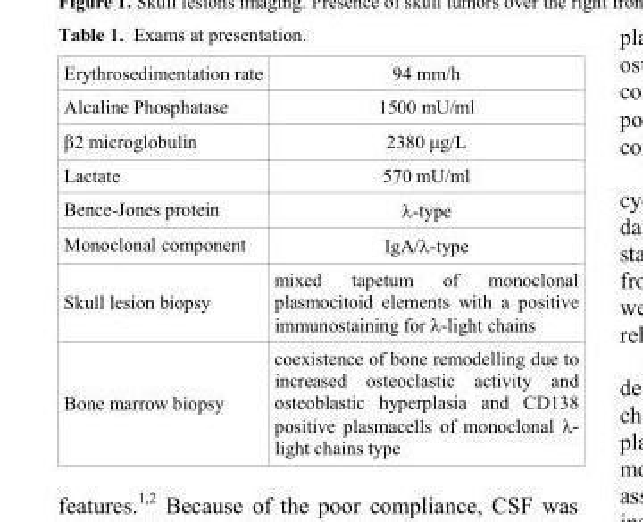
<table><tbody><tr><td>Erythrosedimentation rate</td><td>94 mm/h</td></tr><tr><td>Alcaline Phosphatase</td><td>1500 mU/ml</td></tr><tr><td>β2 microglobulin</td><td>2380 μg/L</td></tr><tr><td>Lactate</td><td>570 mU/ml</td></tr><tr><td>Bence-Jones protein</td><td>λ-type</td></tr><tr><td>Monoclonal component</td><td>IgA/λ-type</td></tr><tr><td>Skull lesion biopsy</td><td>mixed tapetum of monoclonal plasmocitoid elements with a positive immunostaining for λ-light chains</td></tr><tr><td>Bone marrow biopsy</td><td>coexistence of bone remodelling due to increased osteoclastic activity and osteoblastic hyperplasia and CD138 positive plasmacells of monoclonal λ- light chains type</td></tr></tbody></table>